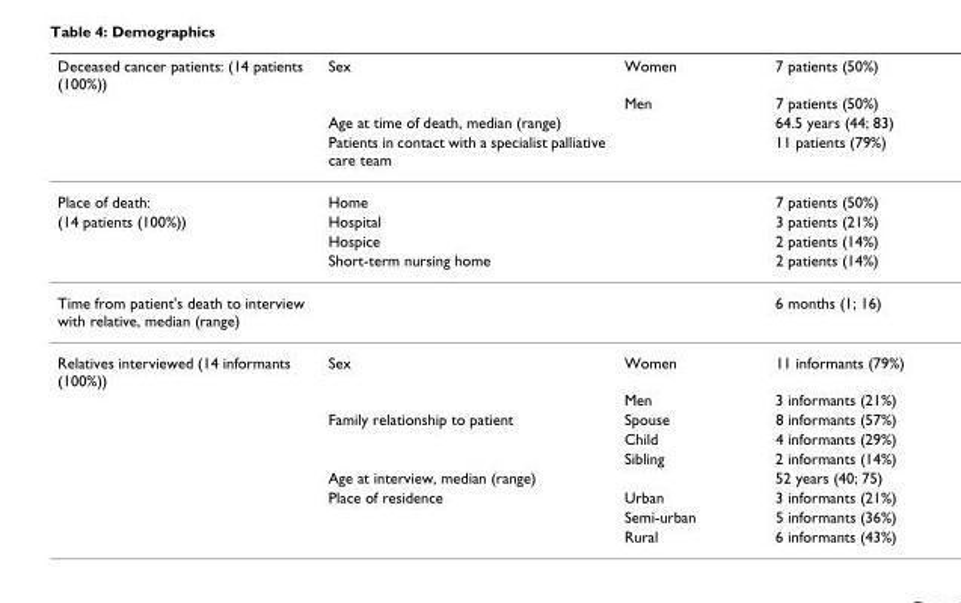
<table><thead><tr><td rowspan="4">Deceased cancer patients: (14 patients (100%))</td><td rowspan="4">Sex Age at time of death, median (range) Patients in contact with a specialist palliative care team</td><td rowspan="4">Women Men</td><td rowspan="4">7 patients (50%) 7 patients (50%) 64.5 years (44; 83) 11 patients (79%)</td></tr><tr></tr><tr></tr><tr></tr></thead><tbody><tr><td>Place of death:</td><td>Home</td><td></td><td>7 patients (50%)</td></tr><tr><td rowspan="3">(14 patients (100%))</td><td>Hospital</td><td></td><td>3 patients (21%)</td></tr><tr><td>Hospice</td><td></td><td>2 patients (14%)</td></tr><tr><td>Short-term nursing home</td><td></td><td>2 patients (14%)</td></tr><tr><td>Time from patient&#x27;s death to interview with relative, median (range)</td><td></td><td></td><td>6 months (1; 16)</td></tr><tr><td rowspan="9">Relatives interviewed (14 informants (100%))</td><td>Sex</td><td>Women</td><td>11 informants (79%)</td></tr><tr><td></td><td>Men</td><td>3 informants (21%)</td></tr><tr><td>Family relationship to patient</td><td>Spouse</td><td>8 informants (57%)</td></tr><tr><td></td><td>Child</td><td>4 informants (29%)</td></tr><tr><td></td><td>Sibling</td><td>2 informants (14%)</td></tr><tr><td>Age at interview, median (range)</td><td></td><td>52 years (40; 75)</td></tr><tr><td>Place of residence</td><td>Urban</td><td>3 informants (21%)</td></tr><tr><td></td><td>Semi-urban</td><td>5 informants (36%)</td></tr><tr><td></td><td>Rural</td><td>6 informants (43%)</td></tr></tbody></table>